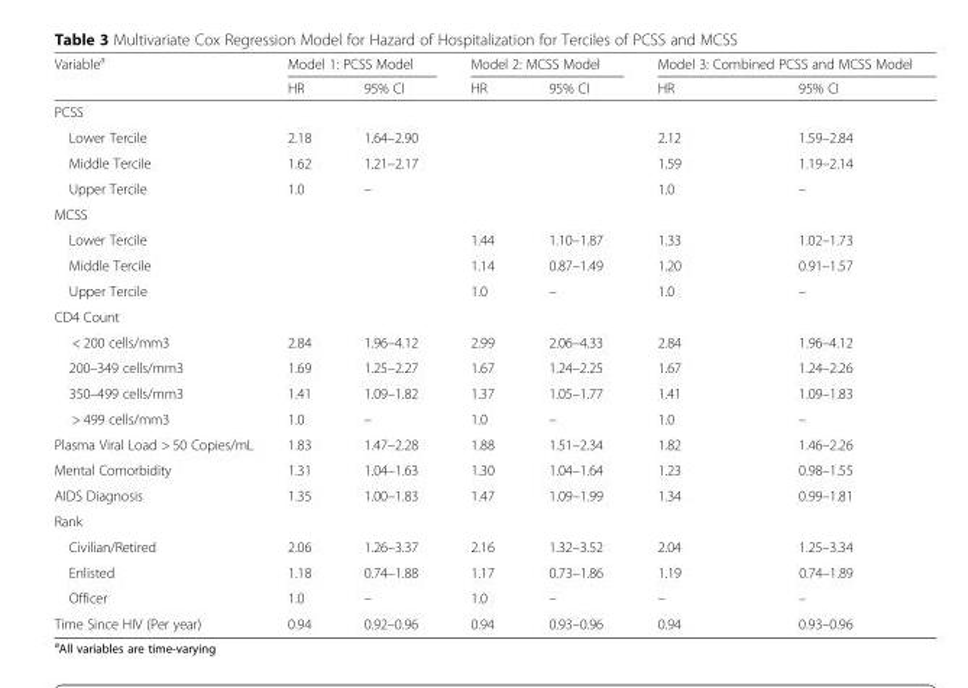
<table><thead><tr><td rowspan="2">Variable<sup>a</sup></td><td colspan="2">Model 1: PCSS Model</td><td colspan="2">Model 2: MCSS Model</td><td colspan="2">Model 3: Combined PCSS and MCSS Model</td></tr><tr><td>HR</td><td>95% CI</td><td>HR</td><td>95% CI</td><td>HR</td><td>95% CI</td></tr></thead><tbody><tr><td colspan="7">PCSS</td></tr><tr><td>Lower Tercile</td><td>2.18</td><td>1.64–2.90</td><td rowspan="3" colspan="2"></td><td>2.12</td><td>1.59–2.84</td></tr><tr><td>Middle Tercile</td><td>1.62</td><td>1.21–2.17</td><td>1.59</td><td>1.19–2.14</td></tr><tr><td>Upper Tercile</td><td>1.0</td><td>–</td><td>1.0</td><td>–</td></tr><tr><td colspan="7">MCSS</td></tr><tr><td>Lower Tercile</td><td rowspan="3" colspan="2"></td><td>1.44</td><td>1.10–1.87</td><td>1.33</td><td>1.02–1.73</td></tr><tr><td>Middle Tercile</td><td>1.14</td><td>0.87–1.49</td><td>1.20</td><td>0.91–1.57</td></tr><tr><td>Upper Tercile</td><td>1.0</td><td>–</td><td>1.0</td><td>–</td></tr><tr><td colspan="7">CD4 Count</td></tr><tr><td>&lt; 200 cells/mm3</td><td>2.84</td><td>1.96–4.12</td><td>2.99</td><td>2.06–4.33</td><td>2.84</td><td>1.96–4.12</td></tr><tr><td>200–349 cells/mm3</td><td>1.69</td><td>1.25–2.27</td><td>1.67</td><td>1.24–2.25</td><td>1.67</td><td>1.24–2.26</td></tr><tr><td>350–499 cells/mm3</td><td>1.41</td><td>1.09–1.82</td><td>1.37</td><td>1.05–1.77</td><td>1.41</td><td>1.09–1.83</td></tr><tr><td>&gt; 499 cells/mm3</td><td>1.0</td><td>–</td><td>1.0</td><td>–</td><td>1.0</td><td>–</td></tr><tr><td>Plasma Viral Load &gt; 50 Copies/mL</td><td>1.83</td><td>1.47–2.28</td><td>1.88</td><td>1.51–2.34</td><td>1.82</td><td>1.46–2.26</td></tr><tr><td>Mental Comorbidity</td><td>1.31</td><td>1.04–1.63</td><td>1.30</td><td>1.04–1.64</td><td>1.23</td><td>0.98–1.55</td></tr><tr><td>AIDS Diagnosis</td><td>1.35</td><td>1.00–1.83</td><td>1.47</td><td>1.09–1.99</td><td>1.34</td><td>0.99–1.81</td></tr><tr><td colspan="7">Rank</td></tr><tr><td>Civilian/Retired</td><td>2.06</td><td>1.26–3.37</td><td>2.16</td><td>1.32–3.52</td><td>2.04</td><td>1.25–3.34</td></tr><tr><td>Enlisted</td><td>1.18</td><td>0.74–1.88</td><td>1.17</td><td>0.73–1.86</td><td>1.19</td><td>0.74–1.89</td></tr><tr><td>Officer</td><td>1.0</td><td>–</td><td>1.0</td><td>–</td><td>–</td><td>–</td></tr><tr><td>Time Since HIV (Per year)</td><td>0.94</td><td>0.92–0.96</td><td>0.94</td><td>0.93–0.96</td><td>0.94</td><td>0.93–0.96</td></tr></tbody></table>